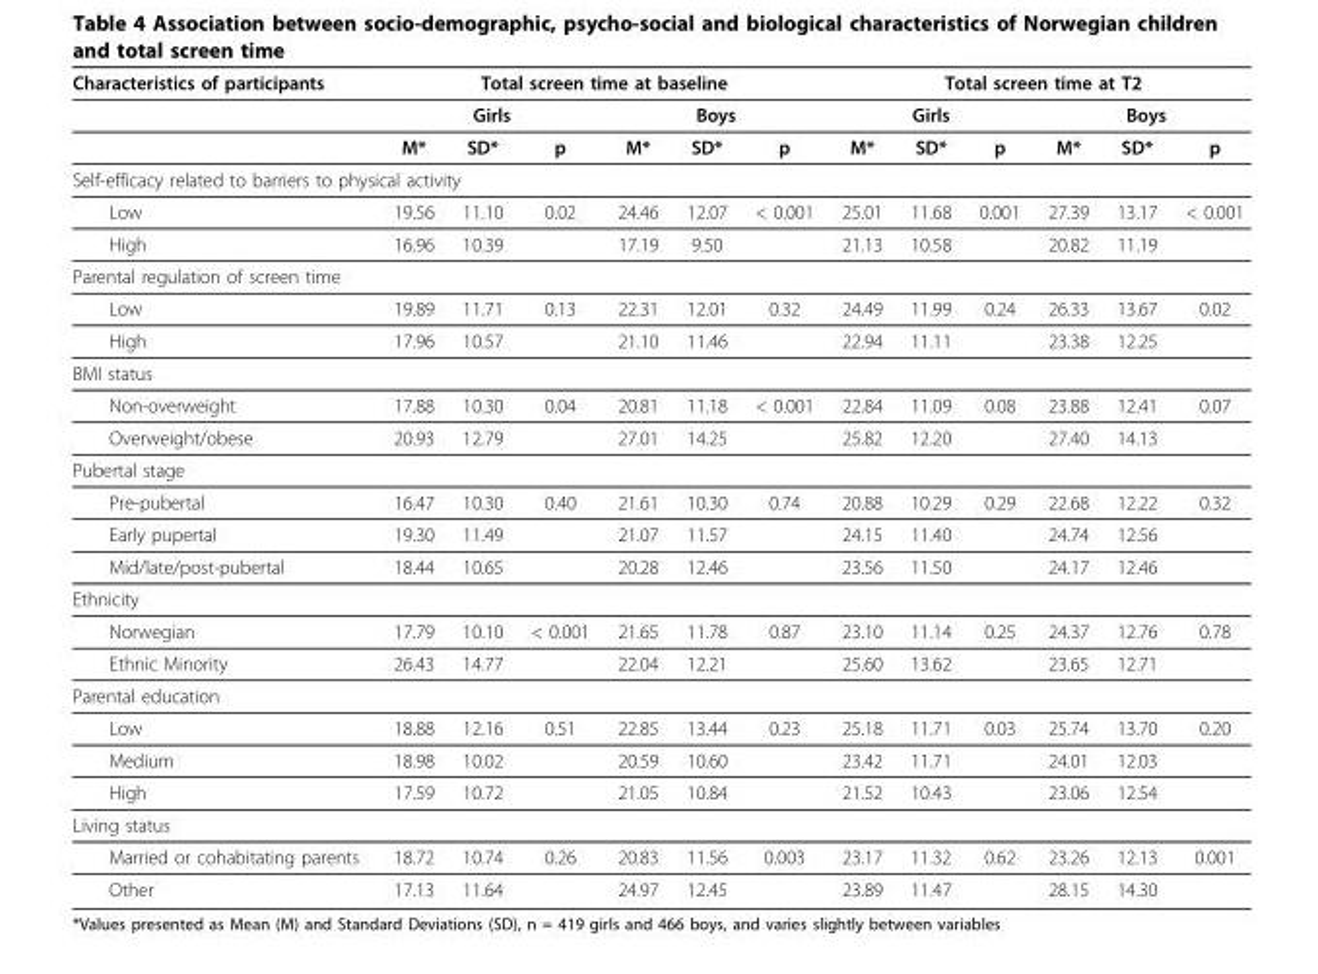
<table><thead><tr><td rowspan="3">Characteristics of participants</td><td colspan="6">Total screen time at baseline</td><td colspan="6">Total screen time at T2</td></tr><tr><td colspan="3">Girls</td><td colspan="3">Boys</td><td colspan="3">Girls</td><td colspan="3">Boys</td></tr><tr><td>M*</td><td>SD*</td><td>p</td><td>M*</td><td>SD*</td><td>p</td><td>M*</td><td>SD*</td><td>p</td><td>M*</td><td>SD*</td><td>p</td></tr></thead><tbody><tr><td colspan="13">Self-efficacy related to barriers to physical activity</td></tr><tr><td>Low</td><td>19.56</td><td>11.10</td><td>0.02</td><td>24.46</td><td>12.07</td><td>&lt; 0.001</td><td>25.01</td><td>11.68</td><td>0.001</td><td>27.39</td><td>13.17</td><td>&lt; 0.001</td></tr><tr><td>High</td><td>16.96</td><td>10.39</td><td></td><td>17.19</td><td>9.50</td><td></td><td>21.13</td><td>10.58</td><td></td><td>20.82</td><td>11.19</td><td></td></tr><tr><td colspan="13">Parental regulation of screen time</td></tr><tr><td>Low</td><td>19.89</td><td>11.71</td><td>0.13</td><td>22.31</td><td>12.01</td><td>0.32</td><td>24.49</td><td>11.99</td><td>0.24</td><td>26.33</td><td>13.67</td><td>0.02</td></tr><tr><td>High</td><td>17.96</td><td>10.57</td><td></td><td>21.10</td><td>11.46</td><td></td><td>22.94</td><td>11.11</td><td></td><td>23.38</td><td>12.25</td><td></td></tr><tr><td colspan="13">BMI status</td></tr><tr><td>Non-overweight</td><td>17.88</td><td>10.30</td><td>0.04</td><td>20.81</td><td>11.18</td><td>&lt; 0.001</td><td>22.84</td><td>11.09</td><td>0.08</td><td>23.88</td><td>12.41</td><td>0.07</td></tr><tr><td>Overweight/obese</td><td>20.93</td><td>12.79</td><td></td><td>27.01</td><td>14.25</td><td></td><td>25.82</td><td>12.20</td><td></td><td>27.40</td><td>14.13</td><td></td></tr><tr><td colspan="13">Pubertal stage</td></tr><tr><td>Pre-pubertal</td><td>16.47</td><td>10.30</td><td>0.40</td><td>21.61</td><td>10.30</td><td>0.74</td><td>20.88</td><td>10.29</td><td>0.29</td><td>22.68</td><td>12.22</td><td>0.32</td></tr><tr><td>Early pupertal</td><td>19.30</td><td>11.49</td><td></td><td>21.07</td><td>11.57</td><td></td><td>24.15</td><td>11.40</td><td></td><td>24.74</td><td>12.56</td><td></td></tr><tr><td>Mid/late/post-pubertal</td><td>18.44</td><td>10.65</td><td></td><td>20.28</td><td>12.46</td><td></td><td>23.56</td><td>11.50</td><td></td><td>24.17</td><td>12.46</td><td></td></tr><tr><td colspan="13">Ethnicity</td></tr><tr><td>Norwegian</td><td>17.79</td><td>10.10</td><td>&lt; 0.001</td><td>21.65</td><td>11.78</td><td>0.87</td><td>23.10</td><td>11.14</td><td>0.25</td><td>24.37</td><td>12.76</td><td>0.78</td></tr><tr><td>Ethnic Minority</td><td>26.43</td><td>14.77</td><td></td><td>22.04</td><td>12.21</td><td></td><td>25.60</td><td>13.62</td><td></td><td>23.65</td><td>12.71</td><td></td></tr><tr><td colspan="13">Parental education</td></tr><tr><td>Low</td><td>18.88</td><td>12.16</td><td>0.51</td><td>22.85</td><td>13.44</td><td>0.23</td><td>25.18</td><td>11.71</td><td>0.03</td><td>25.74</td><td>13.70</td><td>0.20</td></tr><tr><td>Medium</td><td>18.98</td><td>10.02</td><td></td><td>20.59</td><td>10.60</td><td></td><td>23.42</td><td>11.71</td><td></td><td>24.01</td><td>12.03</td><td></td></tr><tr><td>High</td><td>17.59</td><td>10.72</td><td></td><td>21.05</td><td>10.84</td><td></td><td>21.52</td><td>10.43</td><td></td><td>23.06</td><td>12.54</td><td></td></tr><tr><td colspan="13">Living status</td></tr><tr><td>Married or cohabitating parents</td><td>18.72</td><td>10.74</td><td>0.26</td><td>20.83</td><td>11.56</td><td>0.003</td><td>23.17</td><td>11.32</td><td>0.62</td><td>23.26</td><td>12.13</td><td>0.001</td></tr><tr><td>Other</td><td>17.13</td><td>11.64</td><td></td><td>24.97</td><td>12.45</td><td></td><td>23.89</td><td>11.47</td><td></td><td>28.15</td><td>14.30</td><td></td></tr></tbody></table>